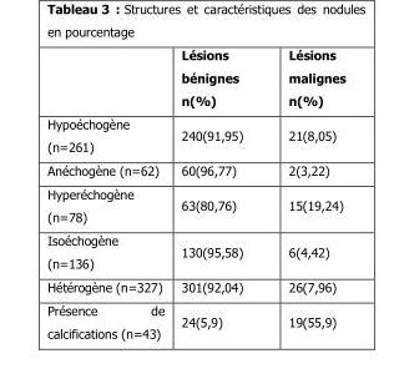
<table><thead><tr><td></td><td>Lésions bénignes n(%)</td><td>Lésions malignes n(%)</td></tr></thead><tbody><tr><td>Hypoéchogène (n=261)</td><td>240(91,95)</td><td>21(8,05)</td></tr><tr><td>Anéchogène (n=62)</td><td>60(96,77)</td><td>2(3,22)</td></tr><tr><td>Hyperéchogène (n=78)</td><td>63(80,76)</td><td>15(19,24)</td></tr><tr><td>Isoéchogène (n=136)</td><td>130(95,58)</td><td>6(4,42)</td></tr><tr><td>Hétérogène (n=327)</td><td>301(92,04)</td><td>26(7,96)</td></tr><tr><td>Présence de calcifications (n=43)</td><td>24(5,9)</td><td>19(55,9)</td></tr></tbody></table>